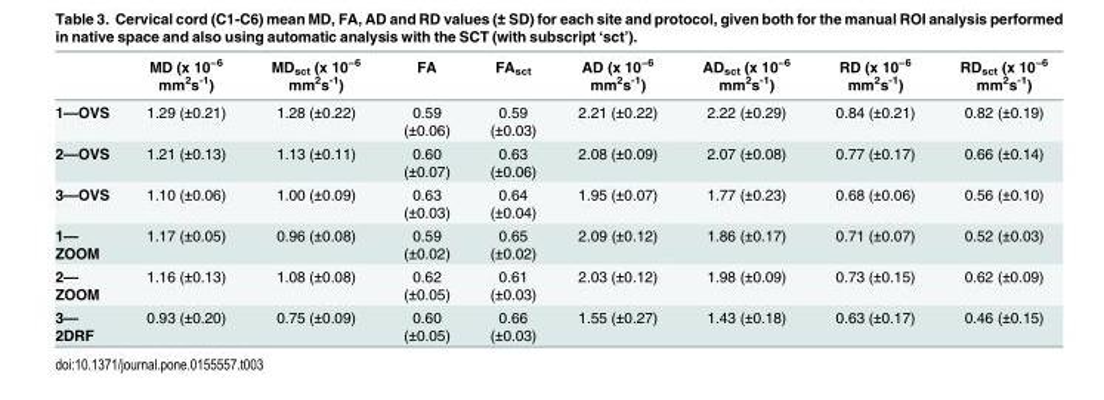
<table><thead><tr><td></td><td>MD (x 10<sup>−6</sup> mm<sup>2</sup>s<sup>-1</sup>)</td><td>MD<sub>sct</sub> (x 10<sup>−6</sup> mm<sup>2</sup>s<sup>-1</sup>)</td><td>FA</td><td>FA<sub>sct</sub></td><td>AD (x 10<sup>−6</sup> mm<sup>2</sup>s<sup>-1</sup>)</td><td>AD<sub>sct</sub> (x 10<sup>−6</sup> mm<sup>2</sup>s<sup>-1</sup>)</td><td>RD (x 10<sup>−6</sup> mm<sup>2</sup>s<sup>-1</sup>)</td><td>RD<sub>sct</sub> (x 10<sup>−6</sup> mm<sup>2</sup>s<sup>-1</sup>)</td></tr></thead><tbody><tr><td>1—OVS</td><td>1.29 (±0.21)</td><td>1.28 (±0.22)</td><td>0.59 (±0.06)</td><td>0.59 (±0.03)</td><td>2.21 (±0.22)</td><td>2.22 (±0.29)</td><td>0.84 (±0.21)</td><td>0.82 (±0.19)</td></tr><tr><td>2—OVS</td><td>1.21 (±0.13)</td><td>1.13 (±0.11)</td><td>0.60 (±0.07)</td><td>0.63 (±0.06)</td><td>2.08 (±0.09)</td><td>2.07 (±0.08)</td><td>0.77 (±0.17)</td><td>0.66 (±0.14)</td></tr><tr><td>3—OVS</td><td>1.10 (±0.06)</td><td>1.00 (±0.09)</td><td>0.63 (±0.03)</td><td>0.64 (±0.04)</td><td>1.95 (±0.07)</td><td>1.77 (±0.23)</td><td>0.68 (±0.06)</td><td>0.56 (±0.10)</td></tr><tr><td>1— ZOOM</td><td>1.17 (±0.05)</td><td>0.96 (±0.08)</td><td>0.59 (±0.02)</td><td>0.65 (±0.02)</td><td>2.09 (±0.12)</td><td>1.86 (±0.17)</td><td>0.71 (±0.07)</td><td>0.52 (±0.03)</td></tr><tr><td>2— ZOOM</td><td>1.16 (±0.13)</td><td>1.08 (±0.08)</td><td>0.62 (±0.05)</td><td>0.61 (±0.03)</td><td>2.03 (±0.12)</td><td>1.98 (±0.09)</td><td>0.73 (±0.15)</td><td>0.62 (±0.09)</td></tr><tr><td>3— 2DRF</td><td>0.93 (±0.20)</td><td>0.75 (±0.09)</td><td>0.60 (±0.05)</td><td>0.66 (±0.03)</td><td>1.55 (±0.27)</td><td>1.43 (±0.18)</td><td>0.63 (±0.17)</td><td>0.46 (±0.15)</td></tr></tbody></table>